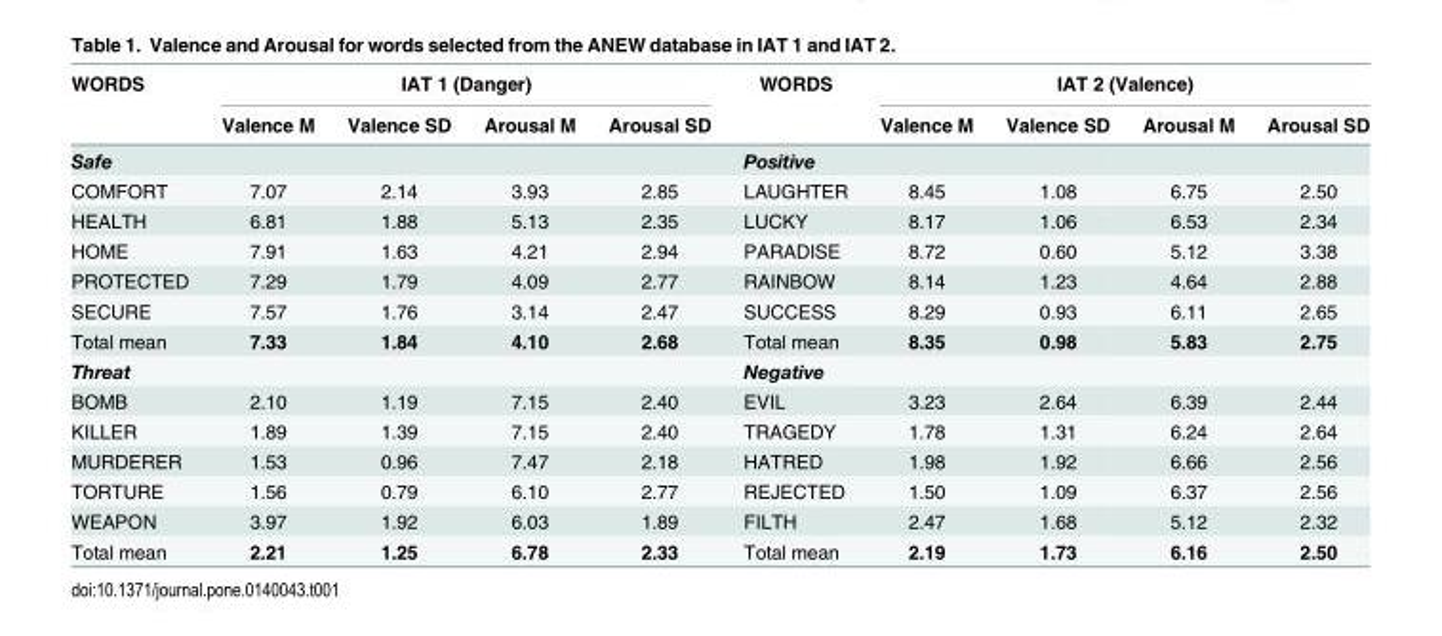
<table><thead><tr><td rowspan="2">WORDS</td><td colspan="4">IAT 1 (Danger)</td><td rowspan="2">WORDS</td><td colspan="4">IAT 2 (Valence)</td></tr><tr><td>Valence M</td><td>Valence SD</td><td>Arousal M</td><td>Arousal SD</td><td>Valence M</td><td>Valence SD</td><td>Arousal M</td><td>Arousal SD</td></tr></thead><tbody><tr><td>Safe</td><td></td><td></td><td></td><td></td><td>Positive</td><td></td><td></td><td></td><td></td></tr><tr><td>COMFORT</td><td>7.07</td><td>2.14</td><td>3.93</td><td>2.85</td><td>LAUGHTER</td><td>8.45</td><td>1.08</td><td>6.75</td><td>2.50</td></tr><tr><td>HEALTH</td><td>6.81</td><td>1.88</td><td>5.13</td><td>2.35</td><td>LUCKY</td><td>8.17</td><td>1.06</td><td>6.53</td><td>2.34</td></tr><tr><td>HOME</td><td>7.91</td><td>1.63</td><td>4.21</td><td>2.94</td><td>PARADISE</td><td>8.72</td><td>0.60</td><td>5.12</td><td>3.38</td></tr><tr><td>PROTECTED</td><td>7.29</td><td>1.79</td><td>4.09</td><td>2.77</td><td>RAINBOW</td><td>8.14</td><td>1.23</td><td>4.64</td><td>2.88</td></tr><tr><td>SECURE</td><td>7.57</td><td>1.76</td><td>3.14</td><td>2.47</td><td>SUCCESS</td><td>8.29</td><td>0.93</td><td>6.11</td><td>2.65</td></tr><tr><td>Total mean</td><td>7.33</td><td>1.84</td><td>4.10</td><td>2.68</td><td>Total mean</td><td>8.35</td><td>0.98</td><td>5.83</td><td>2.75</td></tr><tr><td>Threat</td><td></td><td></td><td></td><td></td><td>Negative</td><td></td><td></td><td></td><td></td></tr><tr><td>BOMB</td><td>2.10</td><td>1.19</td><td>7.15</td><td>2.40</td><td>EVIL</td><td>3.23</td><td>2.64</td><td>6.39</td><td>2.44</td></tr><tr><td>KILLER</td><td>1.89</td><td>1.39</td><td>7.15</td><td>2.40</td><td>TRAGEDY</td><td>1.78</td><td>1.31</td><td>6.24</td><td>2.64</td></tr><tr><td>MURDERER</td><td>1.53</td><td>0.96</td><td>7.47</td><td>2.18</td><td>HATRED</td><td>1.98</td><td>1.92</td><td>6.66</td><td>2.56</td></tr><tr><td>TORTURE</td><td>1.56</td><td>0.79</td><td>6.10</td><td>2.77</td><td>REJECTED</td><td>1.50</td><td>1.09</td><td>6.37</td><td>2.56</td></tr><tr><td>WEAPON</td><td>3.97</td><td>1.92</td><td>6.03</td><td>1.89</td><td>FILTH</td><td>2.47</td><td>1.68</td><td>5.12</td><td>2.32</td></tr><tr><td>Total mean</td><td>2.21</td><td>1.25</td><td>6.78</td><td>2.33</td><td>Total mean</td><td>2.19</td><td>1.73</td><td>6.16</td><td>2.50</td></tr></tbody></table>